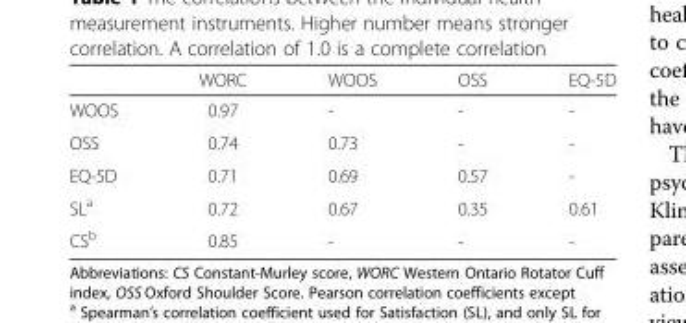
<table><thead><tr><td></td><td>WORC</td><td>WOOS</td><td>OSS</td><td>EQ-5D</td></tr></thead><tbody><tr><td>WOOS</td><td>0.97</td><td>-</td><td>-</td><td>-</td></tr><tr><td>OSS</td><td>0.74</td><td>0.73</td><td>-</td><td>-</td></tr><tr><td>EQ-5D</td><td>0.71</td><td>0.69</td><td>0.57</td><td>-</td></tr><tr><td>SL<sup>a</sup></td><td>0.72</td><td>0.67</td><td>0.35</td><td>0.61</td></tr><tr><td>CS<sup>b</sup></td><td>0.85</td><td>-</td><td>-</td><td>-</td></tr></tbody></table>